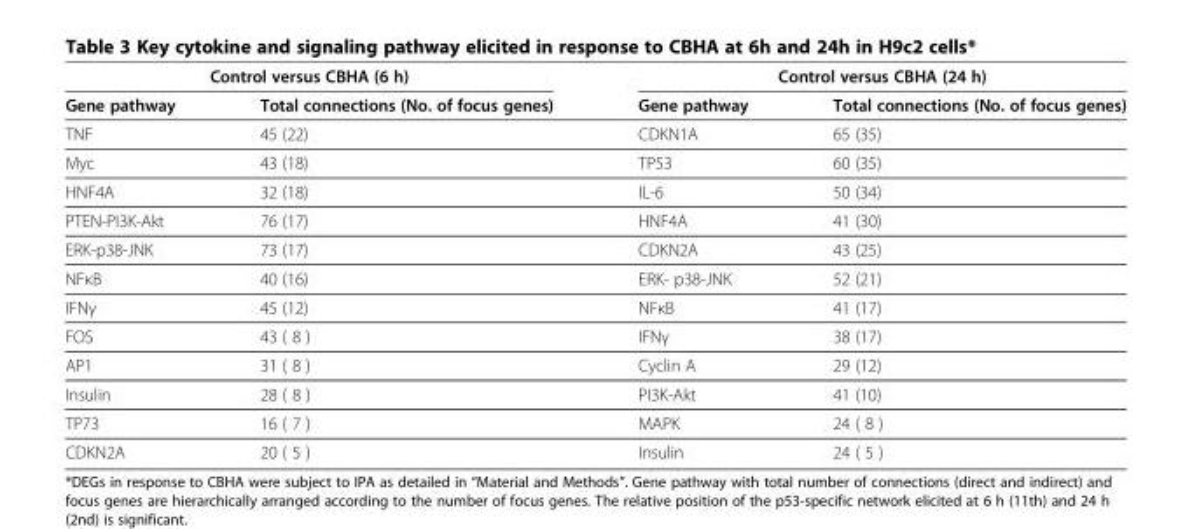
<table><thead><tr><td colspan="2">Control versus CBHA (6 h)</td><td colspan="2">Control versus CBHA (24 h)</td></tr><tr><td>Gene pathway</td><td>Total connections (No. of focus genes)</td><td>Gene pathway</td><td>Total connections (No. of focus genes)</td></tr></thead><tbody><tr><td>TNF</td><td>45 (22)</td><td>CDKN1A</td><td>65 (35)</td></tr><tr><td>Myc</td><td>43 (18)</td><td>TP53</td><td>60 (35)</td></tr><tr><td>HNF4A</td><td>32 (18)</td><td>IL-6</td><td>50 (34)</td></tr><tr><td>PTEN-PI3K-Akt</td><td>76 (17)</td><td>HNF4A</td><td>41 (30)</td></tr><tr><td>ERK-p38-JNK</td><td>73 (17)</td><td>CDKN2A</td><td>43 (25)</td></tr><tr><td>NFκΒ</td><td>40 (16)</td><td>ERK- p38-JNK</td><td>52 (21)</td></tr><tr><td>IFNγ</td><td>45 (12)</td><td>NFκΒ</td><td>41 (17)</td></tr><tr><td>FOS</td><td>43 ( 8 )</td><td>IFNγ</td><td>38 (17)</td></tr><tr><td>AP1</td><td>31 ( 8 )</td><td>Cyclin A</td><td>29 (12)</td></tr><tr><td>Insulin</td><td>28 ( 8 )</td><td>PI3K-Akt</td><td>41 (10)</td></tr><tr><td>TP73</td><td>16 ( 7 )</td><td>MAPK</td><td>24 ( 8 )</td></tr><tr><td>CDKN2A</td><td>20 ( 5 )</td><td>Insulin</td><td>24 ( 5 )</td></tr></tbody></table>